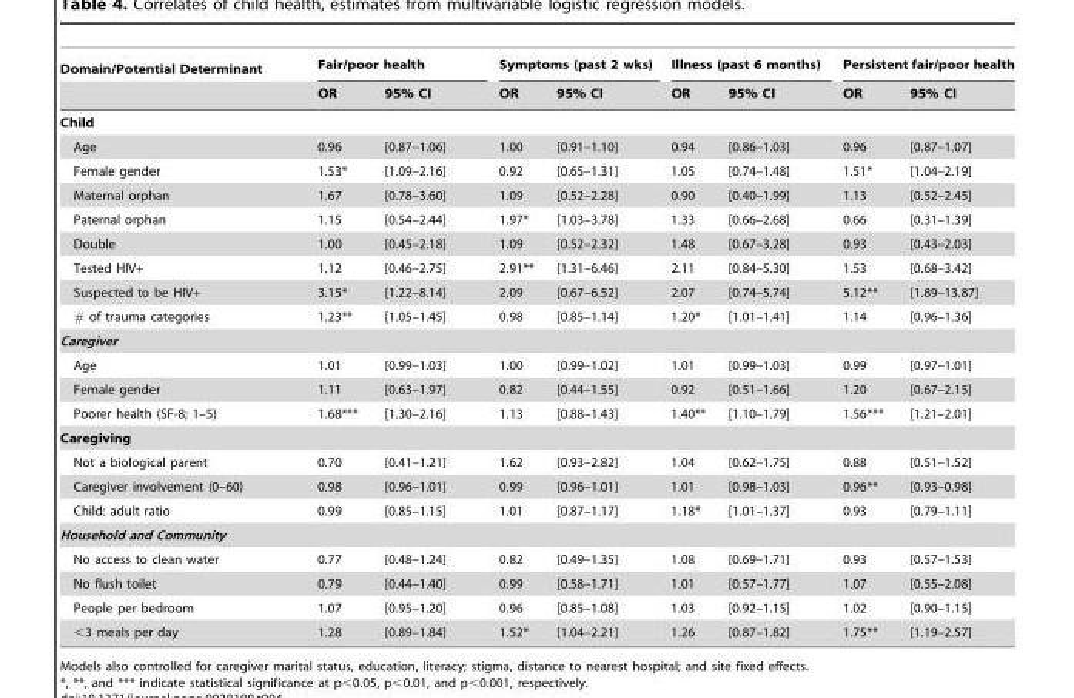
<table><thead><tr><td rowspan="2">Domain/Potential Determinant</td><td colspan="2">Fair/poor health</td><td colspan="2">Symptoms (past 2 wks)</td><td colspan="2">Illness (past 6 months)</td><td colspan="2">Persistent fair/poor health</td></tr><tr><td>OR</td><td>95% CI</td><td>OR</td><td>95% CI</td><td>OR</td><td>95% CI</td><td>OR</td><td>95% CI</td></tr></thead><tbody><tr><td colspan="9">Child</td></tr><tr><td>Age</td><td>0.96</td><td>[0.87–1.06]</td><td>1.00</td><td>[0.91–1.10]</td><td>0.94</td><td>[0.86–1.03]</td><td>0.96</td><td>[0.87–1.07]</td></tr><tr><td>Female gender</td><td>1.53*</td><td>[1.09–2.16]</td><td>0.92</td><td>[0.65–1.31]</td><td>1.05</td><td>[0.74–1.48]</td><td>1.51*</td><td>[1.04–2.19]</td></tr><tr><td>Maternal orphan</td><td>1.67</td><td>[0.78–3.60]</td><td>1.09</td><td>[0.52–2.28]</td><td>0.90</td><td>[0.40–1.99]</td><td>1.13</td><td>[0.52–2.45]</td></tr><tr><td>Paternal orphan</td><td>1.15</td><td>[0.54–2.44]</td><td>1.97*</td><td>[1.03–3.78]</td><td>1.33</td><td>[0.66–2.68]</td><td>0.66</td><td>[0.31–1.39]</td></tr><tr><td>Double</td><td>1.00</td><td>[0.45–2.18]</td><td>1.09</td><td>[0.52–2.32]</td><td>1.48</td><td>[0.67–3.28]</td><td>0.93</td><td>[0.43–2.03]</td></tr><tr><td>Tested HIV+</td><td>1.12</td><td>[0.46–2.75]</td><td>2.91**</td><td>[1.31–6.46]</td><td>2.11</td><td>[0.84–5.30]</td><td>1.53</td><td>[0.68–3.42]</td></tr><tr><td>Suspected to be HIV+</td><td>3.15*</td><td>[1.22–8.14]</td><td>2.09</td><td>[0.67–6.52]</td><td>2.07</td><td>[0.74–5.74]</td><td>5.12**</td><td>[1.89–13.87]</td></tr><tr><td># of trauma categories</td><td>1.23**</td><td>[1.05–1.45]</td><td>0.98</td><td>[0.85–1.14]</td><td>1.20*</td><td>[1.01–1.41]</td><td>1.14</td><td>[0.96–1.36]</td></tr><tr><td colspan="9">Caregiver</td></tr><tr><td>Age</td><td>1.01</td><td>[0.99–1.03]</td><td>1.00</td><td>[0.99–1.02]</td><td>1.01</td><td>[0.99–1.03]</td><td>0.99</td><td>[0.97–1.01]</td></tr><tr><td>Female gender</td><td>1.11</td><td>[0.63–1.97]</td><td>0.82</td><td>[0.44–1.55]</td><td>0.92</td><td>[0.51–1.66]</td><td>1.20</td><td>[0.67–2.15]</td></tr><tr><td>Poorer health (SF-8; 1–5)</td><td>1.68***</td><td>[1.30–2.16]</td><td>1.13</td><td>[0.88–1.43]</td><td>1.40**</td><td>[1.10–1.79]</td><td>1.56***</td><td>[1.21–2.01]</td></tr><tr><td colspan="9">Caregiving</td></tr><tr><td>Not a biological parent</td><td>0.70</td><td>[0.41–1.21]</td><td>1.62</td><td>[0.93–2.82]</td><td>1.04</td><td>[0.62–1.75]</td><td>0.88</td><td>[0.51–1.52]</td></tr><tr><td>Caregiver involvement (0–60)</td><td>0.98</td><td>[0.96–1.01]</td><td>0.99</td><td>[0.96–1.01]</td><td>1.01</td><td>[0.98–1.03]</td><td>0.96**</td><td>[0.93–0.98]</td></tr><tr><td>Child: adult ratio</td><td>0.99</td><td>[0.85–1.15]</td><td>1.01</td><td>[0.87–1.17]</td><td>1.18*</td><td>[1.01–1.37]</td><td>0.93</td><td>[0.79–1.11]</td></tr><tr><td colspan="9">Household and Community</td></tr><tr><td>No access to clean water</td><td>0.77</td><td>[0.48–1.24]</td><td>0.82</td><td>[0.49–1.35]</td><td>1.08</td><td>[0.69–1.71]</td><td>0.93</td><td>[0.57–1.53]</td></tr><tr><td>No flush toilet</td><td>0.79</td><td>[0.44–1.40]</td><td>0.99</td><td>[0.58–1.71]</td><td>1.01</td><td>[0.57–1.77]</td><td>1.07</td><td>[0.55–2.08]</td></tr><tr><td>People per bedroom</td><td>1.07</td><td>[0.95–1.20]</td><td>0.96</td><td>[0.85–1.08]</td><td>1.03</td><td>[0.92–1.15]</td><td>1.02</td><td>[0.90–1.15]</td></tr><tr><td>&lt;3 meals per day</td><td>1.28</td><td>[0.89–1.84]</td><td>1.52*</td><td>[1.04–2.21]</td><td>1.26</td><td>[0.87–1.82]</td><td>1.75**</td><td>[1.19–2.57]</td></tr></tbody></table>